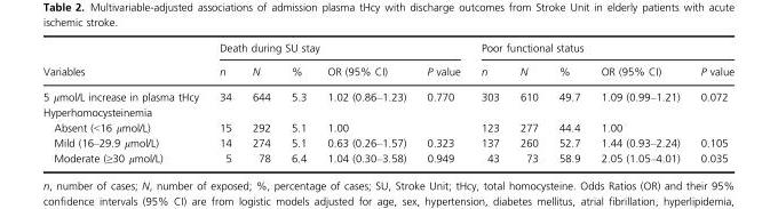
<table><thead><tr><td rowspan="2">Variables</td><td colspan="5">Death during SU stay</td><td colspan="5">Poor functional status</td></tr><tr><td>n</td><td>N</td><td>%</td><td>OR (95% CI)</td><td>P value</td><td>n</td><td>N</td><td>%</td><td>OR (95% CI)</td><td>P value</td></tr></thead><tbody><tr><td>5 μmol/L increase in plasma tHcy</td><td>34</td><td>644</td><td>5.3</td><td>1.02 (0.86–1.23)</td><td>0.770</td><td>303</td><td>610</td><td>49.7</td><td>1.09 (0.99–1.21)</td><td>0.072</td></tr><tr><td colspan="11">Hyperhomocysteinemia</td></tr><tr><td>Absent (&lt;16 μmol/L)</td><td>15</td><td>292</td><td>5.1</td><td>1.00</td><td></td><td>123</td><td>277</td><td>44.4</td><td>1.00</td><td></td></tr><tr><td>Mild (16–29.9 μmol/L)</td><td>14</td><td>274</td><td>5.1</td><td>0.63 (0.26–1.57)</td><td>0.323</td><td>137</td><td>260</td><td>52.7</td><td>1.44 (0.93–2.24)</td><td>0.105</td></tr><tr><td>Moderate (≥30 μmol/L)</td><td>5</td><td>78</td><td>6.4</td><td>1.04 (0.30–3.58)</td><td>0.949</td><td>43</td><td>73</td><td>58.9</td><td>2.05 (1.05–4.01)</td><td>0.035</td></tr></tbody></table>